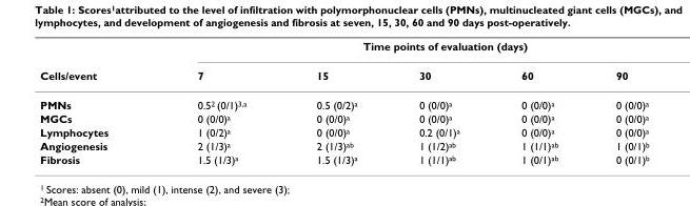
<table><thead><tr><td rowspan="2">Cells/event</td><td colspan="5">Time points of evaluation (days)</td></tr><tr><td>7</td><td>15</td><td>30</td><td>60</td><td>90</td></tr></thead><tbody><tr><td>PMNs</td><td>0.5<sup>2</sup> (0/1)<sup>3,a</sup></td><td>0.5 (0/2)<sup>a</sup></td><td>0 (0/0)<sup>a</sup></td><td>0 (0/0)<sup>a</sup></td><td>0 (0/0)<sup>a</sup></td></tr><tr><td>MGCs</td><td>0 (0/0)<sup>a</sup></td><td>0 (0/0)<sup>a</sup></td><td>0 (0/0)<sup>a</sup></td><td>0 (0/0)<sup>a</sup></td><td>0 (0/0)<sup>a</sup></td></tr><tr><td>Lymphocytes</td><td>1 (0/2)<sup>a</sup></td><td>0 (0/0)<sup>a</sup></td><td>0.2 (0/1)<sup>a</sup></td><td>0 (0/0)<sup>a</sup></td><td>0 (0/0)<sup>a</sup></td></tr><tr><td>Angiogenesis</td><td>2 (1/3)<sup>a</sup></td><td>2 (1/3)<sup>ab</sup></td><td>1 (1/2)<sup>ab</sup></td><td>1 (1/1)<sup>ab</sup></td><td>1 (0/1)<sup>b</sup></td></tr><tr><td>Fibrosis</td><td>1.5 (1/3)<sup>a</sup></td><td>1.5 (1/3)<sup>a</sup></td><td>1 (1/1)<sup>ab</sup></td><td>1 (0/1)<sup>ab</sup></td><td>0 (0/1)<sup>b</sup></td></tr></tbody></table>